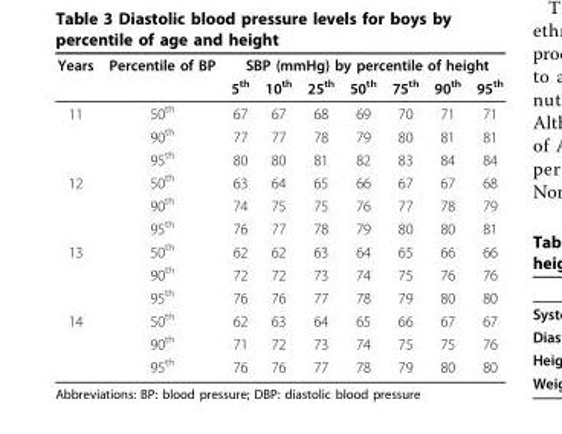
<table><thead><tr><td rowspan="2">Years</td><td rowspan="2">Percentile of BP</td><td colspan="7">SBP (mmHg) by percentile of height</td></tr><tr><td>5<sup>th</sup></td><td>10<sup>th</sup></td><td>25<sup>th</sup></td><td>50<sup>th</sup></td><td>75<sup>th</sup></td><td>90<sup>th</sup></td><td>95<sup>th</sup></td></tr></thead><tbody><tr><td rowspan="3">11</td><td>50<sup>th</sup></td><td>67</td><td>67</td><td>68</td><td>69</td><td>70</td><td>71</td><td>71</td></tr><tr><td>90<sup>th</sup></td><td>77</td><td>77</td><td>78</td><td>79</td><td>80</td><td>81</td><td>81</td></tr><tr><td>95<sup>th</sup></td><td>80</td><td>80</td><td>81</td><td>82</td><td>83</td><td>84</td><td>84</td></tr><tr><td rowspan="3">12</td><td>50<sup>th</sup></td><td>63</td><td>64</td><td>65</td><td>66</td><td>67</td><td>67</td><td>68</td></tr><tr><td>90<sup>th</sup></td><td>74</td><td>75</td><td>75</td><td>76</td><td>77</td><td>78</td><td>79</td></tr><tr><td>95<sup>th</sup></td><td>76</td><td>77</td><td>78</td><td>79</td><td>80</td><td>80</td><td>81</td></tr><tr><td rowspan="3">13</td><td>50<sup>th</sup></td><td>62</td><td>62</td><td>63</td><td>64</td><td>65</td><td>66</td><td>66</td></tr><tr><td>90<sup>th</sup></td><td>72</td><td>72</td><td>73</td><td>74</td><td>75</td><td>76</td><td>76</td></tr><tr><td>95<sup>th</sup></td><td>76</td><td>76</td><td>77</td><td>78</td><td>79</td><td>80</td><td>80</td></tr><tr><td rowspan="3">14</td><td>50<sup>th</sup></td><td>62</td><td>63</td><td>64</td><td>65</td><td>66</td><td>67</td><td>67</td></tr><tr><td>90<sup>th</sup></td><td>71</td><td>72</td><td>73</td><td>74</td><td>75</td><td>75</td><td>76</td></tr><tr><td>95<sup>th</sup></td><td>76</td><td>76</td><td>77</td><td>78</td><td>79</td><td>80</td><td>80</td></tr></tbody></table>